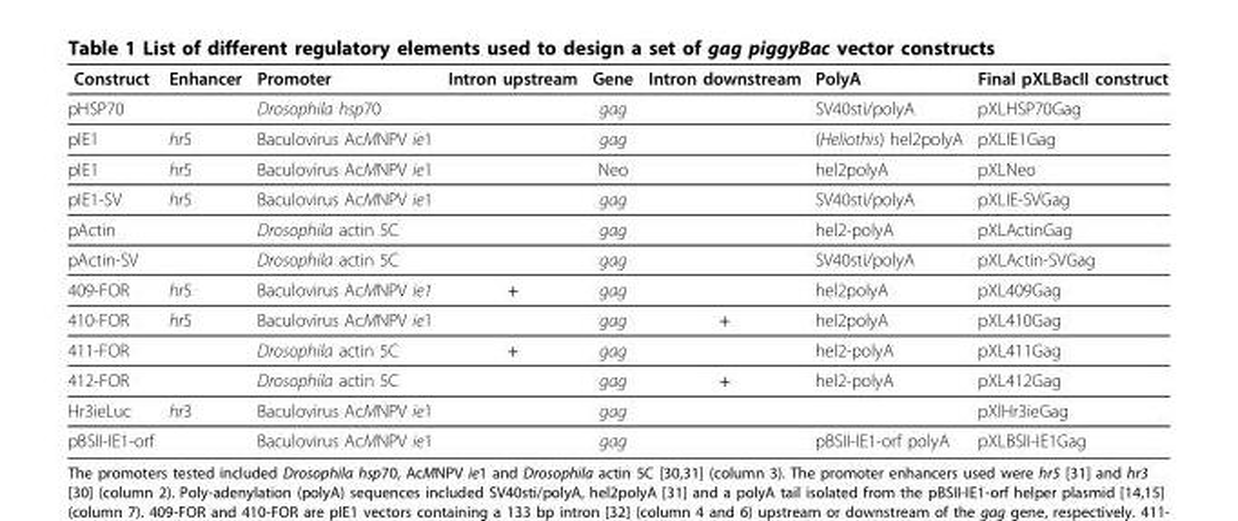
<table><thead><tr><td>Construct</td><td>Enhancer</td><td>Promoter</td><td>Intron upstream</td><td>Gene</td><td>Intron downstream</td><td>PolyA</td><td>Final pXLBacII construct</td></tr></thead><tbody><tr><td>pHSP70</td><td></td><td>Drosophila hsp70</td><td></td><td>gag</td><td></td><td>SV40sti/polyA</td><td>pXLHSP70Gag</td></tr><tr><td>pIE1</td><td>hr5</td><td>Baculovirus AcMNPV ie1</td><td></td><td>gag</td><td></td><td>(Heliothis) hel2polyA</td><td>pXLIE1Gag</td></tr><tr><td>pIE1</td><td>hr5</td><td>Baculovirus AcMNPV ie1</td><td></td><td>Neo</td><td></td><td>hel2polyA</td><td>pXLNeo</td></tr><tr><td>pIE1-SV</td><td>hr5</td><td>Baculovirus AcMNPV ie1</td><td></td><td>gag</td><td></td><td>SV40sti/polyA</td><td>pXLIE-SVGag</td></tr><tr><td>pActin</td><td></td><td>Drosophila actin 5C</td><td></td><td>gag</td><td></td><td>hel2-polyA</td><td>pXLActinGag</td></tr><tr><td>pActin-SV</td><td></td><td>Drosophila actin 5C</td><td></td><td>gag</td><td></td><td>SV40sti/polyA</td><td>pXLActin-SVGag</td></tr><tr><td>409-FOR</td><td>hr5</td><td>Baculovirus AcMNPV ie1</td><td>+</td><td>gag</td><td></td><td>hel2polyA</td><td>pXL409Gag</td></tr><tr><td>410-FOR</td><td>hr5</td><td>Baculovirus AcMNPV ie1</td><td></td><td>gag</td><td>+</td><td>hel2polyA</td><td>pXL410Gag</td></tr><tr><td>411-FOR</td><td></td><td>Drosophila actin 5C</td><td>+</td><td>gag</td><td></td><td>hel2-polyA</td><td>pXL411Gag</td></tr><tr><td>412-FOR</td><td></td><td>Drosophila actin 5C</td><td></td><td>gag</td><td>+</td><td>hel2-polyA</td><td>pXL412Gag</td></tr><tr><td>Hr3ieLuc</td><td>hr3</td><td>Baculovirus AcMNPV ie1</td><td></td><td>gag</td><td></td><td></td><td>pXlHr3ieGag</td></tr><tr><td>pBSII-IE1-orf</td><td></td><td>Baculovirus AcMNPV ie1</td><td></td><td>gag</td><td></td><td>pBSII-IE1-orf polyA</td><td>pXLBSII-IE1Gag</td></tr></tbody></table>